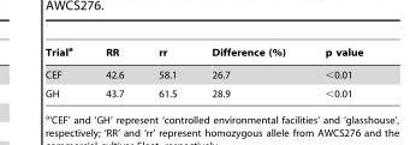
<table><thead><tr><td>Trial<sup>a</sup></td><td>RR</td><td>rr</td><td>Difference (%)</td><td>p value</td></tr></thead><tbody><tr><td>CEF</td><td>42.6</td><td>58.1</td><td>26.7</td><td>&lt;0.01</td></tr><tr><td>GH</td><td>43.7</td><td>61.5</td><td>28.9</td><td>&lt;0.01</td></tr></tbody></table>